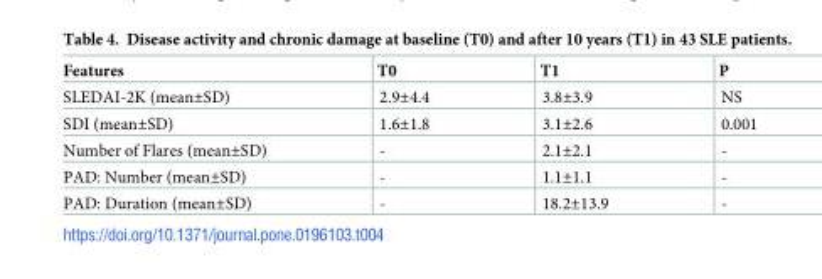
<table><thead><tr><td>Features</td><td>T0</td><td>T1</td><td>P</td></tr></thead><tbody><tr><td>SLEDAI-2K (mean±SD)</td><td>2.9±4.4</td><td>3.8±3.9</td><td>NS</td></tr><tr><td>SDI (mean±SD)</td><td>1.6±1.8</td><td>3.1±2.6</td><td>0.001</td></tr><tr><td>Number of Flares (mean±SD)</td><td>-</td><td>2.1±2.1</td><td>-</td></tr><tr><td>PAD: Number (mean±SD)</td><td>-</td><td>1.1±1.1</td><td>-</td></tr><tr><td>PAD: Duration (mean±SD)</td><td>-</td><td>18.2±13.9</td><td>-</td></tr></tbody></table>